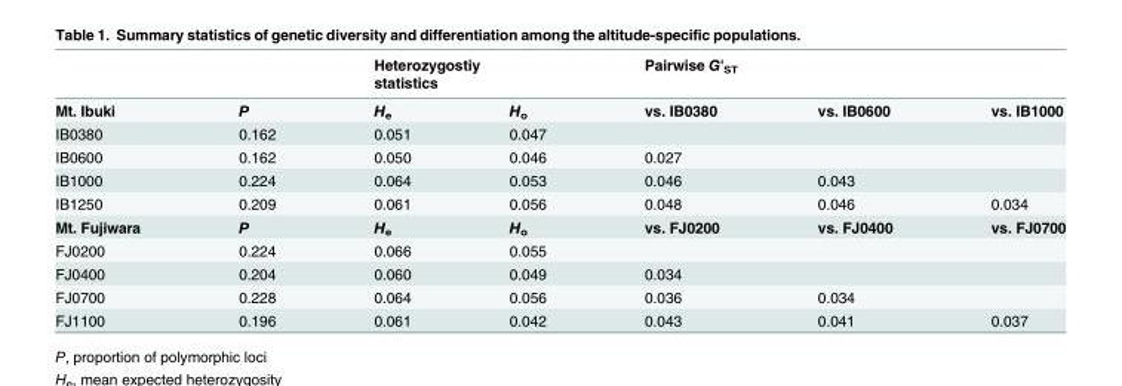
<table><thead><tr><td rowspan="2">Mt. Ibuki</td><td rowspan="2">P</td><td colspan="2">Heterozygostiy statistics</td><td colspan="3">Pairwise G&#x27;<sub>ST</sub></td></tr><tr><td>H<sub>e</sub></td><td>H<sub>o</sub></td><td>vs. IB0380</td><td>vs. IB0600</td><td>vs. IB1000</td></tr></thead><tbody><tr><td>IB0380</td><td>0.162</td><td>0.051</td><td>0.047</td><td></td><td></td><td></td></tr><tr><td>IB0600</td><td>0.162</td><td>0.050</td><td>0.046</td><td>0.027</td><td></td><td></td></tr><tr><td>IB1000</td><td>0.224</td><td>0.064</td><td>0.053</td><td>0.046</td><td>0.043</td><td></td></tr><tr><td>IB1250</td><td>0.209</td><td>0.061</td><td>0.056</td><td>0.048</td><td>0.046</td><td>0.034</td></tr><tr><td>Mt. Fujiwara</td><td>P</td><td>H<sub>e</sub></td><td>H<sub>o</sub></td><td>vs. FJ0200</td><td>vs. FJ0400</td><td>vs. FJ0700</td></tr><tr><td>FJ0200</td><td>0.224</td><td>0.066</td><td>0.055</td><td></td><td></td><td></td></tr><tr><td>FJ0400</td><td>0.204</td><td>0.060</td><td>0.049</td><td>0.034</td><td></td><td></td></tr><tr><td>FJ0700</td><td>0.228</td><td>0.064</td><td>0.056</td><td>0.036</td><td>0.034</td><td></td></tr><tr><td>FJ1100</td><td>0.196</td><td>0.061</td><td>0.042</td><td>0.043</td><td>0.041</td><td>0.037</td></tr></tbody></table>